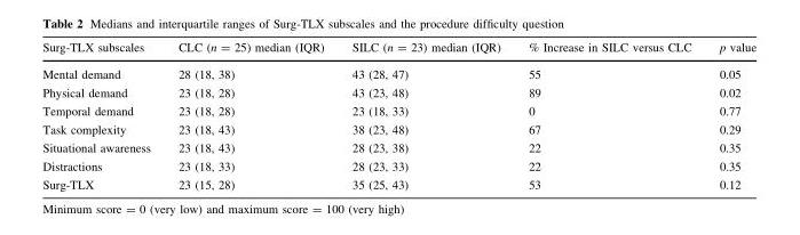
<table><thead><tr><td>Surg-TLX subscales</td><td>CLC (n = 25) median (IQR)</td><td>SILC (n = 23) median (IQR)</td><td>% Increase in SILC versus CLC</td><td>p value</td></tr></thead><tbody><tr><td>Mental demand</td><td>28 (18, 38)</td><td>43 (28, 47)</td><td>55</td><td>0.05</td></tr><tr><td>Physical demand</td><td>23 (18, 28)</td><td>43 (23, 48)</td><td>89</td><td>0.02</td></tr><tr><td>Temporal demand</td><td>23 (18, 28)</td><td>23 (18, 33)</td><td>0</td><td>0.77</td></tr><tr><td>Task complexity</td><td>23 (18, 43)</td><td>38 (23, 48)</td><td>67</td><td>0.29</td></tr><tr><td>Situational awareness</td><td>23 (18, 43)</td><td>28 (23, 38)</td><td>22</td><td>0.35</td></tr><tr><td>Distractions</td><td>23 (18, 33)</td><td>28 (23, 33)</td><td>22</td><td>0.35</td></tr><tr><td>Surg-TLX</td><td>23 (15, 28)</td><td>35 (25, 43)</td><td>53</td><td>0.12</td></tr></tbody></table>